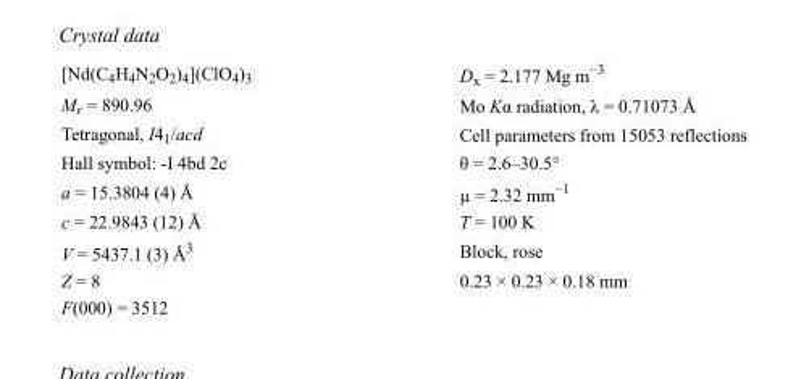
<table><tbody><tr><td>[Nd(C<sub>4</sub>H<sub>4</sub>N<sub>2</sub>O<sub>2</sub>)<sub>4</sub>](ClO<sub>4</sub>)<sub>3</sub></td><td>D<sub>x</sub> = 2.177 Mg m<sup>−3</sup></td></tr><tr><td>M<sub>r</sub> = 890.96</td><td>Mo Kα radiation, λ = 0.71073 Å</td></tr><tr><td>Tetragonal, I4<sub>1</sub>/acd</td><td>Cell parameters from 15053 reflections</td></tr><tr><td>Hall symbol: -I 4bd 2c</td><td>θ = 2.6–30.5°</td></tr><tr><td>a = 15.3804 (4) Å</td><td>µ = 2.32 mm<sup>−1</sup></td></tr><tr><td>c = 22.9843 (12) Å</td><td>T = 100 K</td></tr><tr><td>V = 5437.1 (3) Å<sup>3</sup></td><td>Block, rose</td></tr><tr><td>Z = 8</td><td>0.23 × 0.23 × 0.18 mm</td></tr><tr><td>F(000) = 3512</td><td></td></tr></tbody></table>